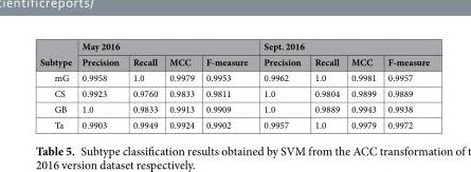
<table><thead><tr><td rowspan="2">Subtype</td><td colspan="4">May 2016</td><td colspan="4">Sept. 2016</td></tr><tr><td>Precision</td><td>Recall</td><td>MCC</td><td>F-measure</td><td>Precision</td><td>Recall</td><td>MCC</td><td>F-measure</td></tr></thead><tbody><tr><td>mG</td><td>0.9958</td><td>1.0</td><td>0.9979</td><td>0.9953</td><td>0.9962</td><td>1.0</td><td>0.9981</td><td>0.9957</td></tr><tr><td>CS</td><td>0.9923</td><td>0.9760</td><td>0.9833</td><td>0.9811</td><td>1.0</td><td>0.9804</td><td>0.9899</td><td>0.9889</td></tr><tr><td>GB</td><td>1.0</td><td>0.9833</td><td>0.9913</td><td>0.9909</td><td>1.0</td><td>0.9889</td><td>0.9943</td><td>0.9938</td></tr><tr><td>Ta</td><td>0.9903</td><td>0.9949</td><td>0.9924</td><td>0.9902</td><td>0.9957</td><td>1.0</td><td>0.9979</td><td>0.9972</td></tr></tbody></table>